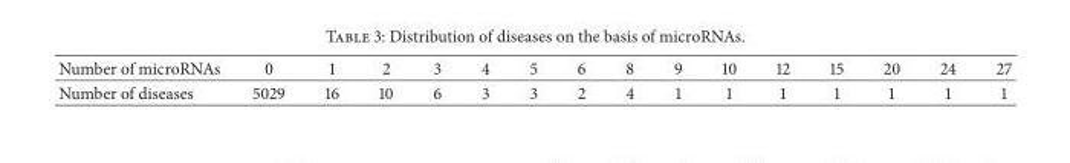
<table><thead><tr><td>Number of microRNAs</td><td>0</td><td>1</td><td>2</td><td>3</td><td>4</td><td>5</td><td>6</td><td>8</td><td>9</td><td>10</td><td>12</td><td>15</td><td>20</td><td>24</td><td>27</td></tr></thead><tbody><tr><td>Number of diseases</td><td>5029</td><td>16</td><td>10</td><td>6</td><td>3</td><td>3</td><td>2</td><td>4</td><td>1</td><td>1</td><td>1</td><td>1</td><td>1</td><td>1</td><td>1</td></tr></tbody></table>